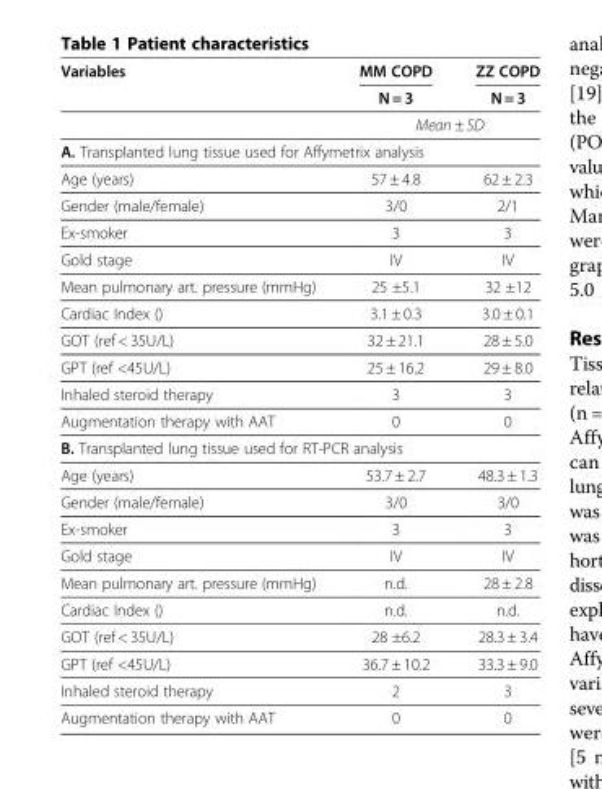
<table><thead><tr><td rowspan="2">Variables</td><td rowspan="2">MM COPD N = 3</td><td rowspan="2">ZZ COPD N = 3</td></tr><tr></tr></thead><tbody><tr><td></td><td colspan="2">Mean ± SD</td></tr><tr><td colspan="3">A. Transplanted lung tissue used for Affymetrix analysis</td></tr><tr><td>Age (years)</td><td>57 ± 4.8</td><td>62 ± 2.3</td></tr><tr><td>Gender (male/female)</td><td>3/0</td><td>2/1</td></tr><tr><td>Ex-smoker</td><td>3</td><td>3</td></tr><tr><td>Gold stage</td><td>IV</td><td>IV</td></tr><tr><td>Mean pulmonary art. pressure (mmHg)</td><td>25 ±5.1</td><td>32 ±12</td></tr><tr><td>Cardiac Index ()</td><td>3.1 ± 0.3</td><td>3.0 ± 0.1</td></tr><tr><td>GOT (ref &lt; 35U/L)</td><td>32 ± 21.1</td><td>28 ± 5.0</td></tr><tr><td>GPT (ref &lt;45U/L)</td><td>25 ± 16.2</td><td>29 ± 8.0</td></tr><tr><td>Inhaled steroid therapy</td><td>3</td><td>3</td></tr><tr><td>Augmentation therapy with AAT</td><td>0</td><td>0</td></tr><tr><td colspan="3">B. Transplanted lung tissue used for RT-PCR analysis</td></tr><tr><td>Age (years)</td><td>53.7 ± 2.7</td><td>48.3 ± 1.3</td></tr><tr><td>Gender (male/female)</td><td>3/0</td><td>3/0</td></tr><tr><td>Ex-smoker</td><td>3</td><td>3</td></tr><tr><td>Gold stage</td><td>IV</td><td>IV</td></tr><tr><td>Mean pulmonary art. pressure (mmHg)</td><td>n.d.</td><td>28 ± 2.8</td></tr><tr><td>Cardiac Index ()</td><td>n.d.</td><td>n.d.</td></tr><tr><td>GOT (ref &lt; 35U/L)</td><td>28 ±6.2</td><td>28.3 ± 3.4</td></tr><tr><td>GPT (ref &lt;45U/L)</td><td>36.7 ± 10.2</td><td>33.3 ± 9.0</td></tr><tr><td>Inhaled steroid therapy</td><td>2</td><td>3</td></tr><tr><td>Augmentation therapy with AAT</td><td>0</td><td>0</td></tr></tbody></table>